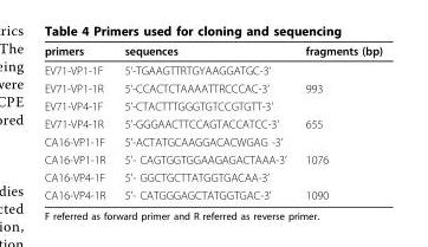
<table><thead><tr><td>primers</td><td>sequences</td><td>fragments (bp)</td></tr></thead><tbody><tr><td>EV71-VP1-1F</td><td>5’-TGAAGTTRTGYAAGGATGC-3’</td><td></td></tr><tr><td>EV71-VP1-1R</td><td>5’-CCACTCTAAAATTRCCCAC-3’</td><td>993</td></tr><tr><td>EV71-VP4-1F</td><td>5’-CTACTTTGGGTGTCCGTGTT-3’</td><td></td></tr><tr><td>EV71-VP4-1R</td><td>5’-GGGAACTTCCAGTACCATCC-3’</td><td>655</td></tr><tr><td>CA16-VP1-1F</td><td>5’-ACTATGCAAGGACACWGAG -3’</td><td></td></tr><tr><td>CA16-VP1-1R</td><td>5’- CAGTGGTGGAAGAGACTAAA-3’</td><td>1076</td></tr><tr><td>CA16-VP4-1F</td><td>5’- GGCTGCTTATGGTGACAA-3’</td><td></td></tr><tr><td>CA16-VP4-1R</td><td>5’- CATGGGAGCTATGGTGAC-3’</td><td>1090</td></tr></tbody></table>